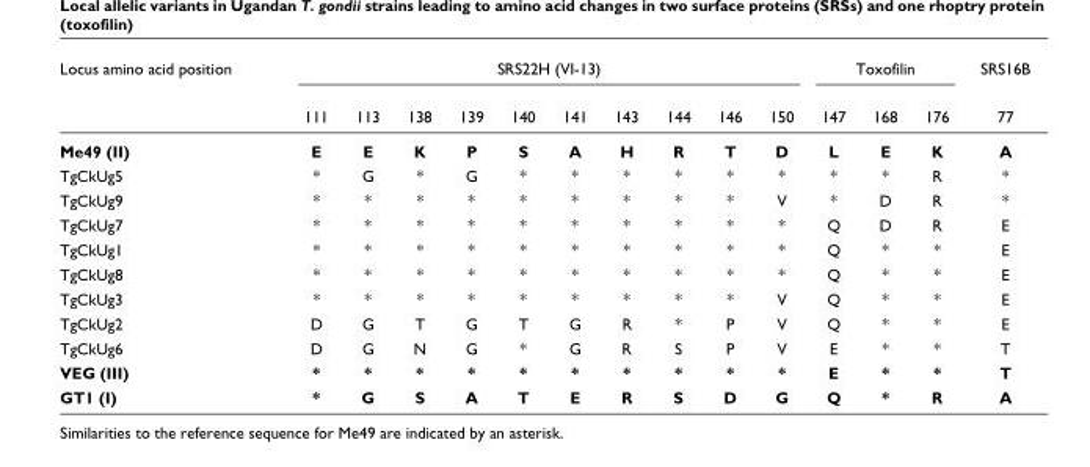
<table><thead><tr><td rowspan="2">Locus amino acid position</td><td colspan="10">SRS22H (VI-13)</td><td colspan="3">Toxofilin</td><td rowspan="2">SRS16B 77</td></tr><tr><td>111</td><td>113</td><td>138</td><td>139</td><td>140</td><td>141</td><td>143</td><td>144</td><td>146</td><td>150</td><td>147</td><td>168</td><td>176</td></tr></thead><tbody><tr><td>Me49 (II)</td><td>E</td><td>E</td><td>K</td><td>P</td><td>S</td><td>A</td><td>H</td><td>R</td><td>T</td><td>D</td><td>L</td><td>E</td><td>K</td><td>A</td></tr><tr><td>TgCkUg5</td><td>*</td><td>G</td><td>*</td><td>G</td><td>*</td><td>*</td><td>*</td><td>*</td><td>*</td><td>*</td><td>*</td><td>*</td><td>R</td><td>*</td></tr><tr><td>TgCkUg9</td><td>*</td><td>*</td><td>*</td><td>*</td><td>*</td><td>*</td><td>*</td><td>*</td><td>*</td><td>V</td><td>*</td><td>D</td><td>R</td><td>*</td></tr><tr><td>TgCkUg7</td><td>*</td><td>*</td><td>*</td><td>*</td><td>*</td><td>*</td><td>*</td><td>*</td><td>*</td><td>*</td><td>Q</td><td>D</td><td>R</td><td>E</td></tr><tr><td>TgCkUg1</td><td>*</td><td>*</td><td>*</td><td>*</td><td>*</td><td>*</td><td>*</td><td>*</td><td>*</td><td>*</td><td>Q</td><td>*</td><td>*</td><td>E</td></tr><tr><td>TgCkUg8</td><td>*</td><td>*</td><td>*</td><td>*</td><td>*</td><td>*</td><td>*</td><td>*</td><td>*</td><td>*</td><td>Q</td><td>*</td><td>*</td><td>E</td></tr><tr><td>TgCkUg3</td><td>*</td><td>*</td><td>*</td><td>*</td><td>*</td><td>*</td><td>*</td><td>*</td><td>*</td><td>V</td><td>Q</td><td>*</td><td>*</td><td>E</td></tr><tr><td>TgCkUg2</td><td>D</td><td>G</td><td>T</td><td>G</td><td>T</td><td>G</td><td>R</td><td>*</td><td>P</td><td>V</td><td>Q</td><td>*</td><td>*</td><td>E</td></tr><tr><td>TgCkUg6</td><td>D</td><td>G</td><td>N</td><td>G</td><td>*</td><td>G</td><td>R</td><td>S</td><td>P</td><td>V</td><td>E</td><td>*</td><td>*</td><td>T</td></tr><tr><td>VEG (III)</td><td>*</td><td>*</td><td>*</td><td>*</td><td>*</td><td>*</td><td>*</td><td>*</td><td>*</td><td>*</td><td>E</td><td>*</td><td>*</td><td>T</td></tr><tr><td>GT1 (I)</td><td>*</td><td>G</td><td>S</td><td>A</td><td>T</td><td>E</td><td>R</td><td>S</td><td>D</td><td>G</td><td>Q</td><td>*</td><td>R</td><td>A</td></tr></tbody></table>